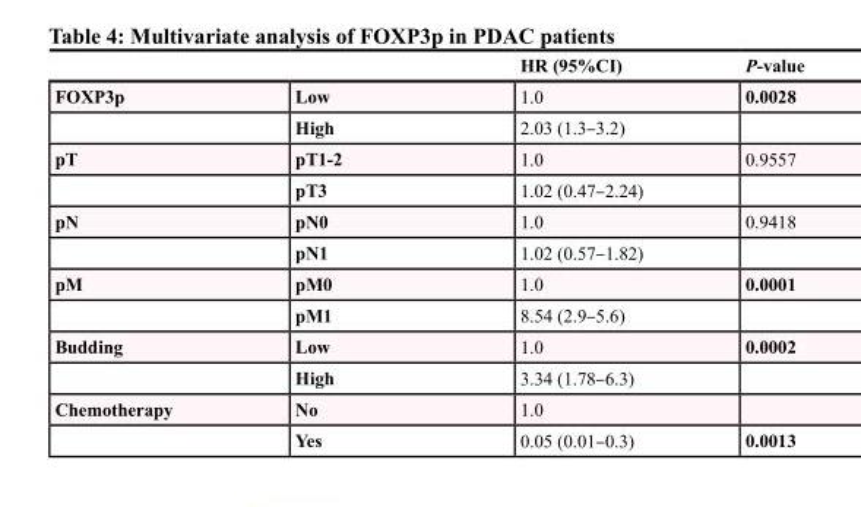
<table><thead><tr><td></td><td></td><td>HR (95%CI)</td><td>P-value</td></tr></thead><tbody><tr><td rowspan="2">FOXP3p</td><td>Low</td><td>1.0</td><td>0.0028</td></tr><tr><td>High</td><td>2.03 (1.3–3.2)</td><td></td></tr><tr><td rowspan="2">pT</td><td>pT1-2</td><td>1.0</td><td>0.9557</td></tr><tr><td>pT3</td><td>1.02 (0.47–2.24)</td><td></td></tr><tr><td rowspan="2">pN</td><td>pN0</td><td>1.0</td><td>0.9418</td></tr><tr><td>pN1</td><td>1.02 (0.57–1.82)</td><td></td></tr><tr><td rowspan="2">pM</td><td>pM0</td><td>1.0</td><td>0.0001</td></tr><tr><td>pM1</td><td>8.54 (2.9–5.6)</td><td></td></tr><tr><td rowspan="2">Budding</td><td>Low</td><td>1.0</td><td>0.0002</td></tr><tr><td>High</td><td>3.34 (1.78–6.3)</td><td></td></tr><tr><td rowspan="2">Chemotherapy</td><td>No</td><td>1.0</td><td></td></tr><tr><td>Yes</td><td>0.05 (0.01–0.3)</td><td>0.0013</td></tr></tbody></table>